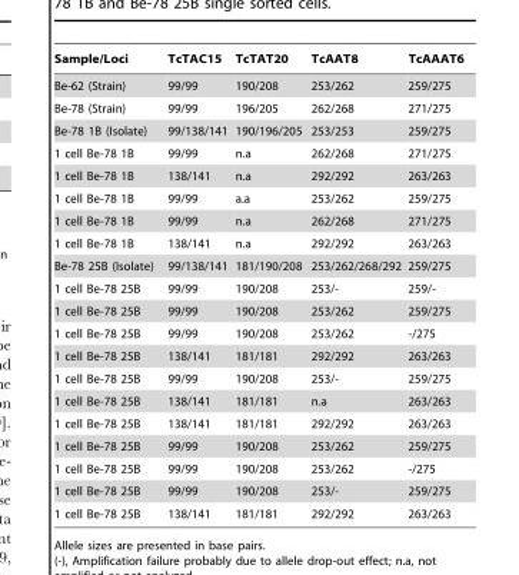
<table><thead><tr><td>Sample/Loci</td><td>TcTAC15</td><td>TcTAT20</td><td>TcAAT8</td><td>TcAAAT6</td></tr></thead><tbody><tr><td>Be-62 (Strain)</td><td>99/99</td><td>190/208</td><td>253/262</td><td>259/275</td></tr><tr><td>Be-78 (Strain)</td><td>99/99</td><td>196/205</td><td>262/268</td><td>271/275</td></tr><tr><td>Be-78 1B (Isolate)</td><td>99/138/141</td><td>190/196/205</td><td>253/253</td><td>259/275</td></tr><tr><td>1 cell Be-78 1B</td><td>99/99</td><td>n.a</td><td>262/268</td><td>271/275</td></tr><tr><td>1 cell Be-78 1B</td><td>138/141</td><td>n.a</td><td>292/292</td><td>263/263</td></tr><tr><td>1 cell Be-78 1B</td><td>99/99</td><td>a.a</td><td>253/262</td><td>259/275</td></tr><tr><td>1 cell Be-78 1B</td><td>99/99</td><td>n.a</td><td>262/268</td><td>271/275</td></tr><tr><td>1 cell Be-78 1B</td><td>138/141</td><td>n.a</td><td>292/292</td><td>263/263</td></tr><tr><td>Be-78 25B (Isolate)</td><td>99/138/141</td><td>181/190/208</td><td>253/262/268/292</td><td>259/275</td></tr><tr><td>1 cell Be-78 25B</td><td>99/99</td><td>190/208</td><td>253/-</td><td>259/-</td></tr><tr><td>1 cell Be-78 25B</td><td>99/99</td><td>190/208</td><td>253/262</td><td>259/275</td></tr><tr><td>1 cell Be-78 25B</td><td>99/99</td><td>190/208</td><td>253/262</td><td>-/275</td></tr><tr><td>1 cell Be-78 25B</td><td>138/141</td><td>181/181</td><td>292/292</td><td>263/263</td></tr><tr><td>1 cell Be-78 25B</td><td>99/99</td><td>190/208</td><td>253/-</td><td>259/275</td></tr><tr><td>1 cell Be-78 25B</td><td>138/141</td><td>181/181</td><td>n.a</td><td>263/263</td></tr><tr><td>1 cell Be-78 25B</td><td>138/141</td><td>181/181</td><td>292/292</td><td>263/263</td></tr><tr><td>1 cell Be-78 25B</td><td>99/99</td><td>190/208</td><td>253/262</td><td>259/275</td></tr><tr><td>1 cell Be-78 25B</td><td>99/99</td><td>190/208</td><td>253/262</td><td>-/275</td></tr><tr><td>1 cell Be-78 25B</td><td>99/99</td><td>190/208</td><td>253/-</td><td>259/275</td></tr><tr><td>1 cell Be-78 25B</td><td>138/141</td><td>181/181</td><td>292/292</td><td>263/263</td></tr></tbody></table>